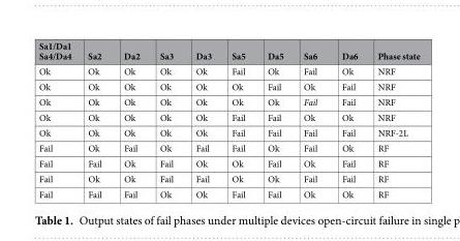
<table><thead><tr><td>Sa1/Da1 Sa4/Da4</td><td>Sa2</td><td>Da2</td><td>Sa3</td><td>Da3</td><td>Sa5</td><td>Da5</td><td>Sa6</td><td>Da6</td><td>Phase state</td></tr></thead><tbody><tr><td>Ok</td><td>Ok</td><td>Ok</td><td>Ok</td><td>Ok</td><td>Fail</td><td>Ok</td><td>Fail</td><td>Ok</td><td>NRF</td></tr><tr><td>Ok</td><td>Ok</td><td>Ok</td><td>Ok</td><td>Ok</td><td>Ok</td><td>Fail</td><td>Ok</td><td>Fail</td><td>NRF</td></tr><tr><td>Ok</td><td>Ok</td><td>Ok</td><td>Ok</td><td>Ok</td><td>Ok</td><td>Ok</td><td>Fail</td><td>Fail</td><td>NRF</td></tr><tr><td>Ok</td><td>Ok</td><td>Ok</td><td>Ok</td><td>Ok</td><td>Fail</td><td>Fail</td><td>Ok</td><td>Ok</td><td>NRF</td></tr><tr><td>Ok</td><td>Ok</td><td>Ok</td><td>Ok</td><td>Ok</td><td>Fail</td><td>Fail</td><td>Fail</td><td>Fail</td><td>NRF-2L</td></tr><tr><td>Fail</td><td>Ok</td><td>Fail</td><td>Ok</td><td>Fail</td><td>Fail</td><td>Ok</td><td>Fail</td><td>Ok</td><td>RF</td></tr><tr><td>Fail</td><td>Fail</td><td>Ok</td><td>Fail</td><td>Ok</td><td>Ok</td><td>Fail</td><td>Ok</td><td>Fail</td><td>RF</td></tr><tr><td>Fail</td><td>Ok</td><td>Ok</td><td>Fail</td><td>Fail</td><td>Ok</td><td>Ok</td><td>Fail</td><td>Fail</td><td>RF</td></tr><tr><td>Fail</td><td>Fail</td><td>Fail</td><td>Ok</td><td>Ok</td><td>Fail</td><td>Fail</td><td>Ok</td><td>Ok</td><td>RF</td></tr></tbody></table>